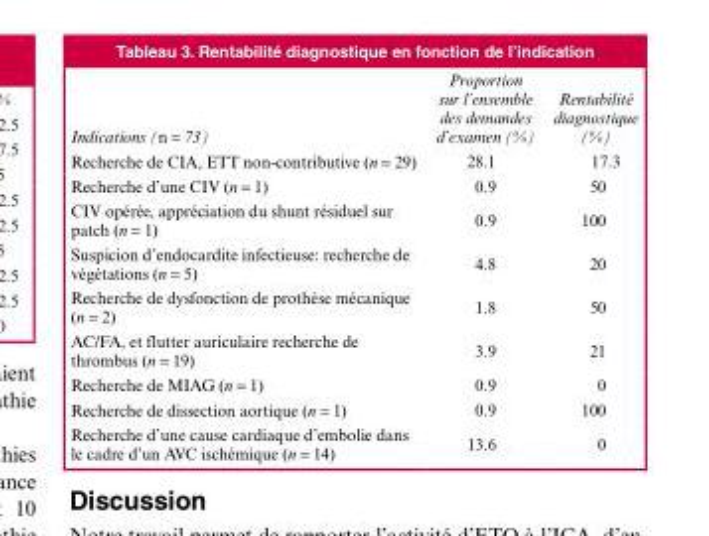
<table><thead><tr><td>Indications (n = 73)</td><td>Proportion sur l’ensemble des demandes d’examen (%)</td><td>Rentabilité diagnostique (%)</td></tr></thead><tbody><tr><td>Recherche de CIA, ETT non-contributive (n = 29)</td><td>28.1</td><td>17.3</td></tr><tr><td>Recherche d’une CIV (n = 1)</td><td>0.9</td><td>50</td></tr><tr><td>CIV opérée, appréciation du shunt résiduel sur patch (n = 1)</td><td>0.9</td><td>100</td></tr><tr><td>Suspicion d’endocardite infectieuse: recherche de végétations (n = 5)</td><td>4.8</td><td>20</td></tr><tr><td>Recherche de dysfonction de prothèse mécanique (n = 2)</td><td>1.8</td><td>50</td></tr><tr><td>AC/FA, et flutter auriculaire recherche de thrombus (n = 19)</td><td>3.9</td><td>21</td></tr><tr><td>Recherche de MIAG (n = 1)</td><td>0.9</td><td>0</td></tr><tr><td>Recherche de dissection aortique (n = 1)</td><td>0.9</td><td>100</td></tr><tr><td>Recherche d’une cause cardiaque d’embolie dans le cadre d’un AVC ischémique (n = 14)</td><td>13.6</td><td>0</td></tr></tbody></table>